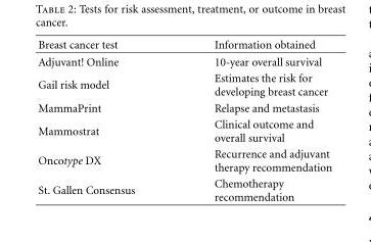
<table><thead><tr><td>Breast cancer test</td><td>Information obtained</td></tr></thead><tbody><tr><td>Adjuvant! Online</td><td>10-year overall survival</td></tr><tr><td>Gail risk model</td><td>Estimates the risk for developing breast cancer</td></tr><tr><td>MammaPrint</td><td>Relapse and metastasis</td></tr><tr><td>Mammostrat</td><td>Clinical outcome and overall survival</td></tr><tr><td>Oncotype DX</td><td>Recurrence and adjuvant therapy recommendation</td></tr><tr><td>St. Gallen Consensus</td><td>Chemotherapy recommendation</td></tr></tbody></table>